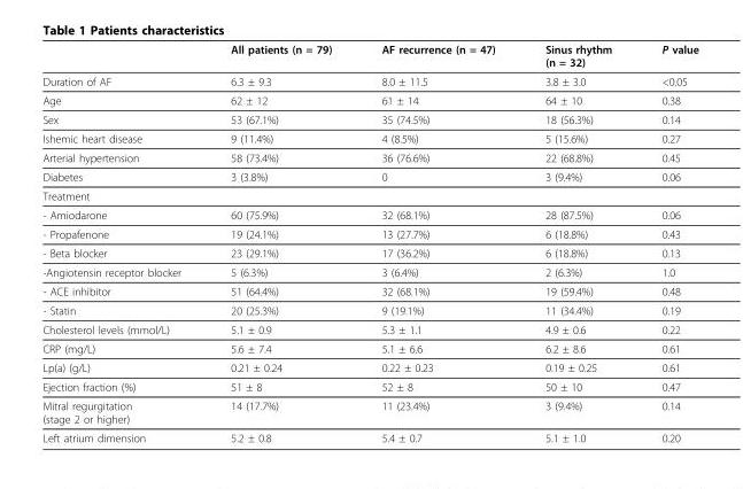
<table><thead><tr><td></td><td>All patients (n = 79)</td><td>AF recurrence (n = 47)</td><td>Sinus rhythm (n = 32)</td><td>P value</td></tr></thead><tbody><tr><td>Duration of AF</td><td>6.3 ± 9.3</td><td>8.0 ± 11.5</td><td>3.8 ± 3.0</td><td>&lt;0.05</td></tr><tr><td>Age</td><td>62 ± 12</td><td>61 ± 14</td><td>64 ± 10</td><td>0.38</td></tr><tr><td>Sex</td><td>53 (67.1%)</td><td>35 (74.5%)</td><td>18 (56.3%)</td><td>0.14</td></tr><tr><td>Ishemic heart disease</td><td>9 (11.4%)</td><td>4 (8.5%)</td><td>5 (15.6%)</td><td>0.27</td></tr><tr><td>Arterial hypertension</td><td>58 (73.4%)</td><td>36 (76.6%)</td><td>22 (68.8%)</td><td>0.45</td></tr><tr><td>Diabetes</td><td>3 (3.8%)</td><td>0</td><td>3 (9.4%)</td><td>0.06</td></tr><tr><td colspan="5">Treatment</td></tr><tr><td>- Amiodarone</td><td>60 (75.9%)</td><td>32 (68.1%)</td><td>28 (87.5%)</td><td>0.06</td></tr><tr><td>- Propafenone</td><td>19 (24.1%)</td><td>13 (27.7%)</td><td>6 (18.8%)</td><td>0.43</td></tr><tr><td>- Beta blocker</td><td>23 (29.1%)</td><td>17 (36.2%)</td><td>6 (18.8%)</td><td>0.13</td></tr><tr><td>-Angiotensin receptor blocker</td><td>5 (6.3%)</td><td>3 (6.4%)</td><td>2 (6.3%)</td><td>1.0</td></tr><tr><td>- ACE inhibitor</td><td>51 (64.4%)</td><td>32 (68.1%)</td><td>19 (59.4%)</td><td>0.48</td></tr><tr><td>- Statin</td><td>20 (25.3%)</td><td>9 (19.1%)</td><td>11 (34.4%)</td><td>0.19</td></tr><tr><td>Cholesterol levels (mmol/L)</td><td>5.1 ± 0.9</td><td>5.3 ± 1.1</td><td>4.9 ± 0.6</td><td>0.22</td></tr><tr><td>CRP (mg/L)</td><td>5.6 ± 7.4</td><td>5.1 ± 6.6</td><td>6.2 ± 8.6</td><td>0.61</td></tr><tr><td>Lp(a) (g/L)</td><td>0.21 ± 0.24</td><td>0.22 ± 0.23</td><td>0.19 ± 0.25</td><td>0.61</td></tr><tr><td>Ejection fraction (%)</td><td>51 ± 8</td><td>52 ± 8</td><td>50 ± 10</td><td>0.47</td></tr><tr><td>Mitral regurgitation (stage 2 or higher)</td><td>14 (17.7%)</td><td>11 (23.4%)</td><td>3 (9.4%)</td><td>0.14</td></tr><tr><td>Left atrium dimension</td><td>5.2 ± 0.8</td><td>5.4 ± 0.7</td><td>5.1 ± 1.0</td><td>0.20</td></tr></tbody></table>